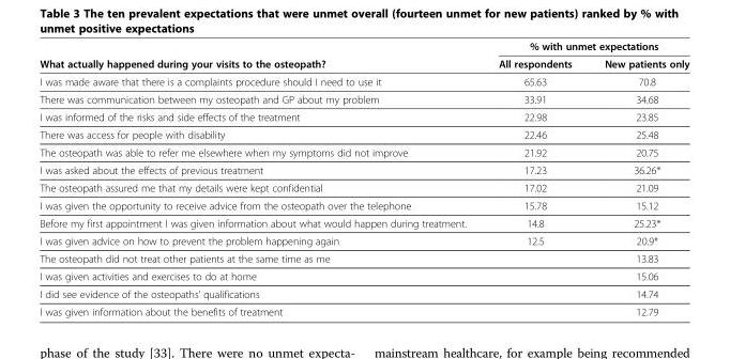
<table><thead><tr><td rowspan="2">What actually happened during your visits to the osteopath?</td><td colspan="2">% with unmet expectations</td></tr><tr><td>All respondents</td><td>New patients only</td></tr></thead><tbody><tr><td>I was made aware that there is a complaints procedure should I need to use it</td><td>65.63</td><td>70.8</td></tr><tr><td>There was communication between my osteopath and GP about my problem</td><td>33.91</td><td>34.68</td></tr><tr><td>I was informed of the risks and side effects of the treatment</td><td>22.98</td><td>23.85</td></tr><tr><td>There was access for people with disability</td><td>22.46</td><td>25.48</td></tr><tr><td>The osteopath was able to refer me elsewhere when my symptoms did not improve</td><td>21.92</td><td>20.75</td></tr><tr><td>I was asked about the effects of previous treatment</td><td>17.23</td><td>36.26*</td></tr><tr><td>The osteopath assured me that my details were kept confidential</td><td>17.02</td><td>21.09</td></tr><tr><td>I was given the opportunity to receive advice from the osteopath over the telephone</td><td>15.78</td><td>15.12</td></tr><tr><td>Before my first appointment I was given information about what would happen during treatment.</td><td>14.8</td><td>25.23*</td></tr><tr><td>I was given advice on how to prevent the problem happening again</td><td>12.5</td><td>20.9*</td></tr><tr><td>The osteopath did not treat other patients at the same time as me</td><td></td><td>13.83</td></tr><tr><td>I was given activities and exercises to do at home</td><td></td><td>15.06</td></tr><tr><td>I did see evidence of the osteopaths’ qualifications</td><td></td><td>14.74</td></tr><tr><td>I was given information about the benefits of treatment</td><td></td><td>12.79</td></tr></tbody></table>